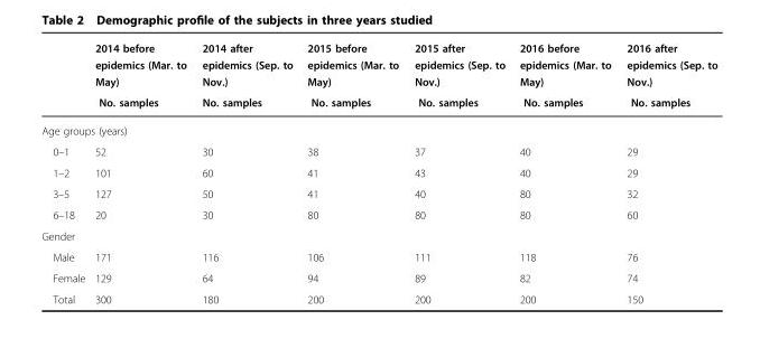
<table><thead><tr><td rowspan="2"></td><td rowspan="2">2014 before epidemics (Mar. to May) No. samples</td><td rowspan="2">2014 after epidemics (Sep. to Nov.) No. samples</td><td rowspan="2">2015 before epidemics (Mar. to May) No. samples</td><td rowspan="2">2015 after epidemics (Sep. to Nov.) No. samples</td><td rowspan="2">2016 before epidemics (Mar. to May) No. samples</td><td rowspan="2">2016 after epidemics (Sep. to Nov.) No. samples</td></tr><tr></tr></thead><tbody><tr><td colspan="7">Age groups (years)</td></tr><tr><td>0–1</td><td>52</td><td>30</td><td>38</td><td>37</td><td>40</td><td>29</td></tr><tr><td>1–2</td><td>101</td><td>60</td><td>41</td><td>43</td><td>40</td><td>29</td></tr><tr><td>3–5</td><td>127</td><td>50</td><td>41</td><td>40</td><td>80</td><td>32</td></tr><tr><td>6–18</td><td>20</td><td>30</td><td>80</td><td>80</td><td>80</td><td>60</td></tr><tr><td colspan="7">Gender</td></tr><tr><td>Male</td><td>171</td><td>116</td><td>106</td><td>111</td><td>118</td><td>76</td></tr><tr><td>Female</td><td>129</td><td>64</td><td>94</td><td>89</td><td>82</td><td>74</td></tr><tr><td>Total</td><td>300</td><td>180</td><td>200</td><td>200</td><td>200</td><td>150</td></tr></tbody></table>